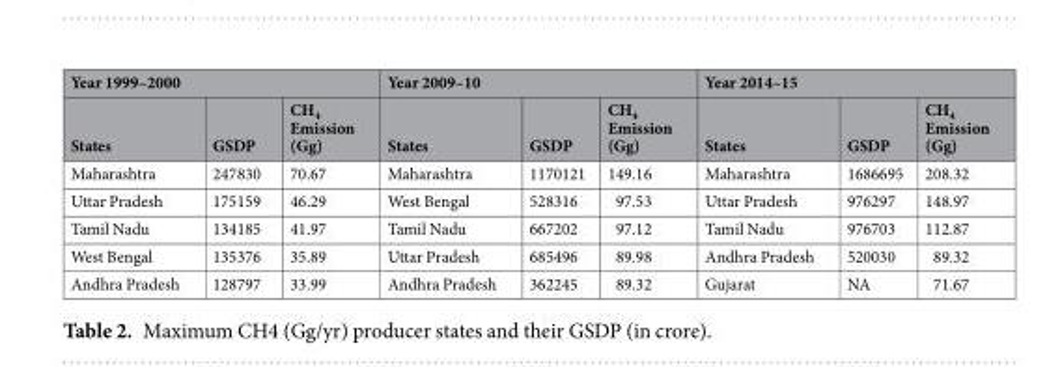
<table><thead><tr><td colspan="3">Year 1999–2000</td><td colspan="3">Year 2009–10</td><td colspan="3">Year 2014–15</td></tr><tr><td>States</td><td>GSDP</td><td>CH<sub>4</sub> Emission (Gg)</td><td>States</td><td>GSDP</td><td>CH<sub>4</sub> Emission (Gg)</td><td>States</td><td>GSDP</td><td>CH<sub>4</sub> Emission (Gg)</td></tr></thead><tbody><tr><td>Maharashtra</td><td>247830</td><td>70.67</td><td>Maharashtra</td><td>1170121</td><td>149.16</td><td>Maharashtra</td><td>1686695</td><td>208.32</td></tr><tr><td>Uttar Pradesh</td><td>175159</td><td>46.29</td><td>West Bengal</td><td>528316</td><td>97.53</td><td>Uttar Pradesh</td><td>976297</td><td>148.97</td></tr><tr><td>Tamil Nadu</td><td>134185</td><td>41.97</td><td>Tamil Nadu</td><td>667202</td><td>97.12</td><td>Tamil Nadu</td><td>976703</td><td>112.87</td></tr><tr><td>West Bengal</td><td>135376</td><td>35.89</td><td>Uttar Pradesh</td><td>685496</td><td>89.98</td><td>Andhra Pradesh</td><td>520030</td><td>89.32</td></tr><tr><td>Andhra Pradesh</td><td>128797</td><td>33.99</td><td>Andhra Pradesh</td><td>362245</td><td>89.32</td><td>Gujarat</td><td>NA</td><td>71.67</td></tr></tbody></table>